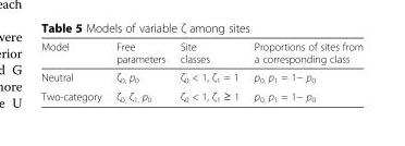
<table><thead><tr><td>Model</td><td>Free parameters</td><td>Site classes</td><td>Proportions of sites from a corresponding class</td></tr></thead><tbody><tr><td>Neutral</td><td>ζ<sub>0,</sub> p<sub>0</sub></td><td>ζ<sub>0</sub> &lt; 1, ζ<sub>1</sub> = 1</td><td>p<sub>0,</sub> p<sub>1</sub> = 1− p<sub>0</sub></td></tr><tr><td>Two-category</td><td>ζ<sub>0,</sub> ζ<sub>1,</sub> p<sub>0</sub></td><td>ζ<sub>0</sub> &lt; 1, ζ<sub>1</sub> ≥ 1</td><td>p<sub>0,</sub> p<sub>1</sub> = 1− p<sub>0</sub></td></tr></tbody></table>